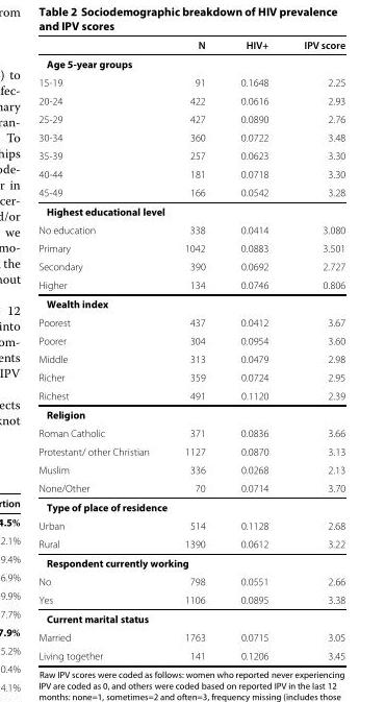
<table><thead><tr><td></td><td>N</td><td>HIV+</td><td>IPV score</td></tr></thead><tbody><tr><td colspan="4">Age 5-year groups</td></tr><tr><td>15-19</td><td>91</td><td>0.1648</td><td>2.25</td></tr><tr><td>20-24</td><td>422</td><td>0.0616</td><td>2.93</td></tr><tr><td>25-29</td><td>427</td><td>0.0890</td><td>2.76</td></tr><tr><td>30-34</td><td>360</td><td>0.0722</td><td>3.48</td></tr><tr><td>35-39</td><td>257</td><td>0.0623</td><td>3.30</td></tr><tr><td>40-44</td><td>181</td><td>0.0718</td><td>3.30</td></tr><tr><td>45-49</td><td>166</td><td>0.0542</td><td>3.28</td></tr><tr><td colspan="4">Highest educational level</td></tr><tr><td>No education</td><td>338</td><td>0.0414</td><td>3.080</td></tr><tr><td>Primary</td><td>1042</td><td>0.0883</td><td>3.501</td></tr><tr><td>Secondary</td><td>390</td><td>0.0692</td><td>2.727</td></tr><tr><td>Higher</td><td>134</td><td>0.0746</td><td>0.806</td></tr><tr><td colspan="4">Wealth index</td></tr><tr><td>Poorest</td><td>437</td><td>0.0412</td><td>3.67</td></tr><tr><td>Poorer</td><td>304</td><td>0.0954</td><td>3.60</td></tr><tr><td>Middle</td><td>313</td><td>0.0479</td><td>2.98</td></tr><tr><td>Richer</td><td>359</td><td>0.0724</td><td>2.95</td></tr><tr><td>Richest</td><td>491</td><td>0.1120</td><td>2.39</td></tr><tr><td colspan="4">Religion</td></tr><tr><td>Roman Catholic</td><td>371</td><td>0.0836</td><td>3.66</td></tr><tr><td>Protestant/ other Christian</td><td>1127</td><td>0.0870</td><td>3.13</td></tr><tr><td>Muslim</td><td>336</td><td>0.0268</td><td>2.13</td></tr><tr><td>None/Other</td><td>70</td><td>0.0714</td><td>3.70</td></tr><tr><td colspan="4">Type of place of residence</td></tr><tr><td>Urban</td><td>514</td><td>0.1128</td><td>2.68</td></tr><tr><td>Rural</td><td>1390</td><td>0.0612</td><td>3.22</td></tr><tr><td colspan="4">Respondent currently working</td></tr><tr><td>No</td><td>798</td><td>0.0551</td><td>2.66</td></tr><tr><td>Yes</td><td>1106</td><td>0.0895</td><td>3.38</td></tr><tr><td colspan="4">Current marital status</td></tr><tr><td>Married</td><td>1763</td><td>0.0715</td><td>3.05</td></tr><tr><td>Living together</td><td>141</td><td>0.1206</td><td>3.45</td></tr></tbody></table>